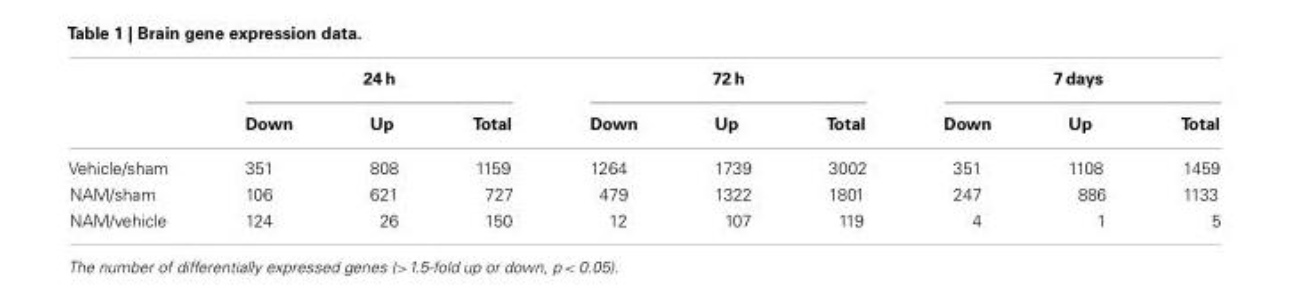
<table><thead><tr><td rowspan="2"></td><td colspan="3">24 h</td><td colspan="3">72 h</td><td colspan="3">7 days</td></tr><tr><td>Down</td><td>Up</td><td>Total</td><td>Down</td><td>Up</td><td>Total</td><td>Down</td><td>Up</td><td>Total</td></tr></thead><tbody><tr><td>Vehicle/sham</td><td>351</td><td>808</td><td>1159</td><td>1264</td><td>1739</td><td>3002</td><td>351</td><td>1108</td><td>1459</td></tr><tr><td>NAM/sham</td><td>106</td><td>621</td><td>727</td><td>479</td><td>1322</td><td>1801</td><td>247</td><td>886</td><td>1133</td></tr><tr><td>NAM/vehicle</td><td>124</td><td>26</td><td>150</td><td>12</td><td>107</td><td>119</td><td>4</td><td>1</td><td>5</td></tr></tbody></table>